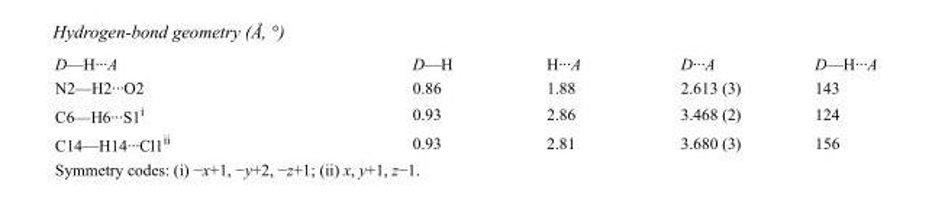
<table><tbody><tr><td>D—H···A</td><td>D—H</td><td>H···A</td><td>D···A</td><td>D—H···A</td></tr><tr><td>N2—H2···O2</td><td>0.86</td><td>1.88</td><td>2.613 (3)</td><td>143</td></tr><tr><td>C6—H6···S1<sup>i</sup></td><td>0.93</td><td>2.86</td><td>3.468 (2)</td><td>124</td></tr><tr><td>C14—H14···Cl1<sup>ii</sup></td><td>0.93</td><td>2.81</td><td>3.680 (3)</td><td>156</td></tr></tbody></table>